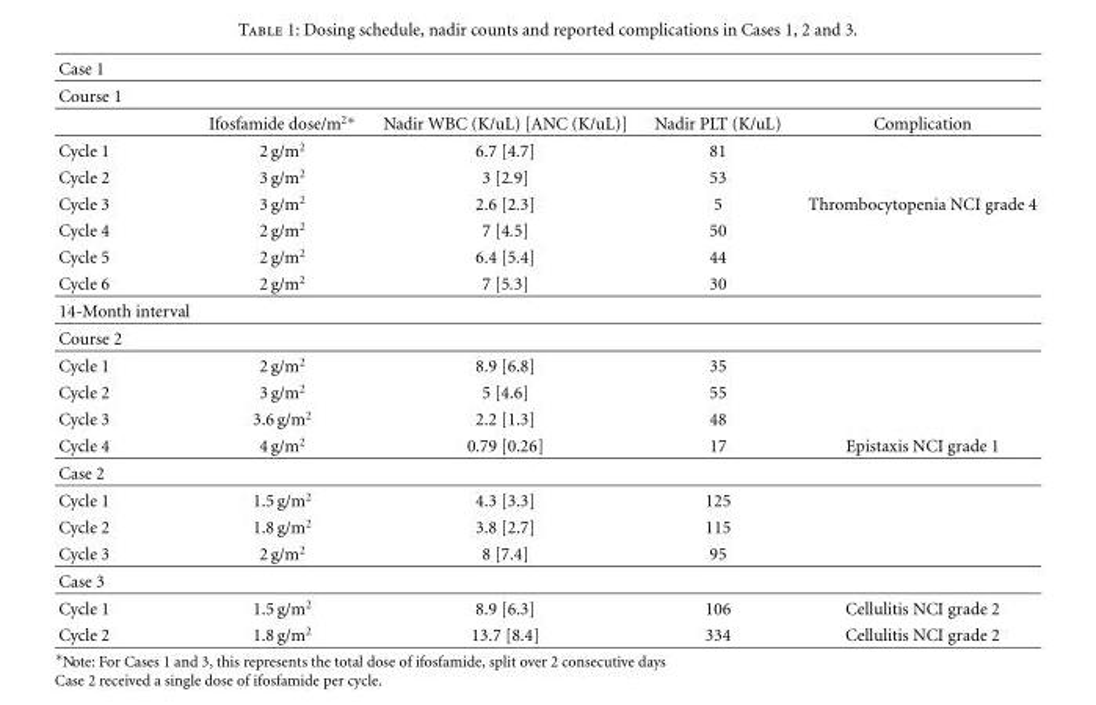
<table><tbody><tr><td colspan="5">Case 1</td></tr><tr><td colspan="5">Course 1</td></tr><tr><td></td><td>Ifosfamide dose/m2∗</td><td>Nadir WBC (K/uL) [ANC (K/uL)]</td><td>Nadir PLT (K/uL)</td><td>Complication</td></tr><tr><td>Cycle 1</td><td>2 g/m<sup>2</sup></td><td>6.7 [4.7]</td><td>81</td><td></td></tr><tr><td>Cycle 2</td><td>3 g/m<sup>2</sup></td><td>3 [2.9]</td><td>53</td><td></td></tr><tr><td>Cycle 3</td><td>3 g/m<sup>2</sup></td><td>2.6 [2.3]</td><td>5</td><td>Thrombocytopenia NCI grade 4</td></tr><tr><td>Cycle 4</td><td>2 g/m<sup>2</sup></td><td>7 [4.5]</td><td>50</td><td></td></tr><tr><td>Cycle 5</td><td>2 g/m<sup>2</sup></td><td>6.4 [5.4]</td><td>44</td><td></td></tr><tr><td>Cycle 6</td><td>2 g/m<sup>2</sup></td><td>7 [5.3]</td><td>30</td><td></td></tr><tr><td colspan="5">14-Month interval</td></tr><tr><td colspan="5">Course 2</td></tr><tr><td>Cycle 1</td><td>2 g/m<sup>2</sup></td><td>8.9 [6.8]</td><td>35</td><td></td></tr><tr><td>Cycle 2</td><td>3 g/m<sup>2</sup></td><td>5 [4.6]</td><td>55</td><td></td></tr><tr><td>Cycle 3</td><td>3.6 g/m<sup>2</sup></td><td>2.2 [1.3]</td><td>48</td><td></td></tr><tr><td>Cycle 4</td><td>4 g/m<sup>2</sup></td><td>0.79 [0.26]</td><td>17</td><td>Epistaxis NCI grade 1</td></tr><tr><td colspan="5">Case 2</td></tr><tr><td>Cycle 1</td><td>1.5 g/m<sup>2</sup></td><td>4.3 [3.3]</td><td>125</td><td></td></tr><tr><td>Cycle 2</td><td>1.8 g/m<sup>2</sup></td><td>3.8 [2.7]</td><td>115</td><td></td></tr><tr><td>Cycle 3</td><td>2 g/m<sup>2</sup></td><td>8 [7.4]</td><td>95</td><td></td></tr><tr><td colspan="5">Case 3</td></tr><tr><td>Cycle 1</td><td>1.5 g/m<sup>2</sup></td><td>8.9 [6.3]</td><td>106</td><td>Cellulitis NCI grade 2</td></tr><tr><td>Cycle 2</td><td>1.8 g/m<sup>2</sup></td><td>13.7 [8.4]</td><td>334</td><td>Cellulitis NCI grade 2</td></tr></tbody></table>